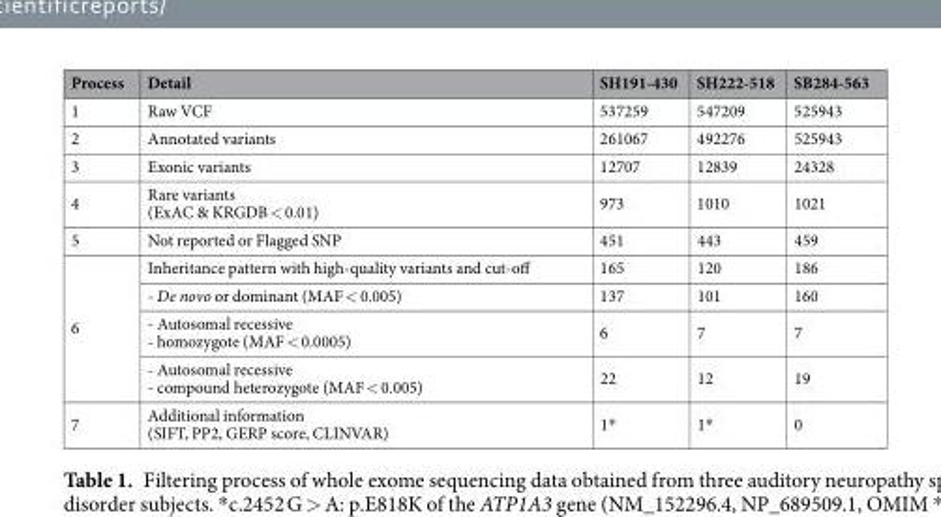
<table><thead><tr><td>Process</td><td>Detail</td><td>SH191-430</td><td>SH222-518</td><td>SB284-563</td></tr></thead><tbody><tr><td>1</td><td>Raw VCF</td><td>537259</td><td>547209</td><td>525943</td></tr><tr><td>2</td><td>Annotated variants</td><td>261067</td><td>492276</td><td>525943</td></tr><tr><td>3</td><td>Exonic variants</td><td>12707</td><td>12839</td><td>24328</td></tr><tr><td>4</td><td>Rare variants (ExAC &amp; KRGDB &lt; 0.01)</td><td>973</td><td>1010</td><td>1021</td></tr><tr><td>5</td><td>Not reported or Flagged SNP</td><td>451</td><td>443</td><td>459</td></tr><tr><td rowspan="4">6</td><td>Inheritance pattern with high-quality variants and cut-off</td><td>165</td><td>120</td><td>186</td></tr><tr><td>- De novo or dominant (MAF &lt; 0.005)</td><td>137</td><td>101</td><td>160</td></tr><tr><td>- Autosomal recessive - homozygote (MAF &lt; 0.0005)</td><td>6</td><td>7</td><td>7</td></tr><tr><td>- Autosomal recessive - compound heterozygote (MAF &lt; 0.005)</td><td>22</td><td>12</td><td>19</td></tr><tr><td>7</td><td>Additional information (SIFT, PP2, GERP score, CLINVAR)</td><td>1*</td><td>1*</td><td>0</td></tr></tbody></table>